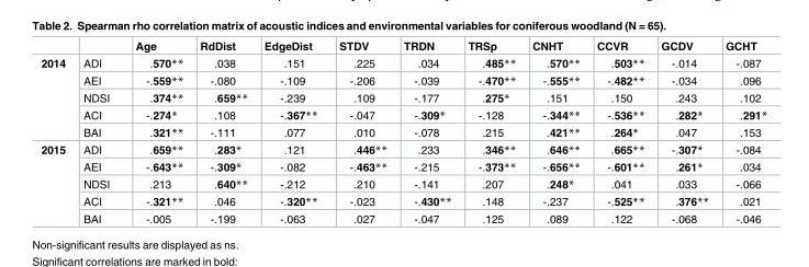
<table><thead><tr><td></td><td></td><td>Age</td><td>RdDist</td><td>EdgeDist</td><td>STDV</td><td>TRDN</td><td>TRSp</td><td>CNHT</td><td>CCVR</td><td>GCDV</td><td>GCHT</td></tr></thead><tbody><tr><td rowspan="5">2014</td><td>ADI</td><td>.570**</td><td>.038</td><td>.151</td><td>.225</td><td>.034</td><td>.485**</td><td>.570**</td><td>.503**</td><td>-.014</td><td>-.087</td></tr><tr><td>AEI</td><td>-.559**</td><td>-.080</td><td>-.109</td><td>-.206</td><td>-.039</td><td>-.470**</td><td>-.555**</td><td>-.482**</td><td>-.034</td><td>.096</td></tr><tr><td>NDSI</td><td>.374**</td><td>.659**</td><td>-.239</td><td>.109</td><td>-.177</td><td>.275*</td><td>.151</td><td>.150</td><td>.243</td><td>.102</td></tr><tr><td>ACI</td><td>-.274*</td><td>.108</td><td>-.367**</td><td>-.047</td><td>-.309*</td><td>-.128</td><td>-.344**</td><td>-.536**</td><td>.282*</td><td>.291*</td></tr><tr><td>BAI</td><td>.321**</td><td>-.111</td><td>.077</td><td>.010</td><td>-.078</td><td>.215</td><td>.421**</td><td>.264*</td><td>.047</td><td>.153</td></tr><tr><td rowspan="5">2015</td><td>ADI</td><td>.659**</td><td>.283*</td><td>.121</td><td>.446**</td><td>.233</td><td>.346**</td><td>.646**</td><td>.665**</td><td>-.307*</td><td>-.084</td></tr><tr><td>AEI</td><td>-.643**</td><td>-.309*</td><td>-.082</td><td>-.463**</td><td>-.215</td><td>-.373**</td><td>-.656**</td><td>-.601**</td><td>.261*</td><td>.034</td></tr><tr><td>NDSI</td><td>.213</td><td>.640**</td><td>-.212</td><td>.210</td><td>-.141</td><td>.207</td><td>.248*</td><td>.041</td><td>.033</td><td>-.066</td></tr><tr><td>ACI</td><td>-.321**</td><td>.046</td><td>-.320**</td><td>-.023</td><td>-.430**</td><td>.148</td><td>-.237</td><td>-.525**</td><td>.376**</td><td>.021</td></tr><tr><td>BAI</td><td>-.005</td><td>-.199</td><td>-.063</td><td>.027</td><td>-.047</td><td>.125</td><td>.089</td><td>.122</td><td>-.068</td><td>-.046</td></tr></tbody></table>